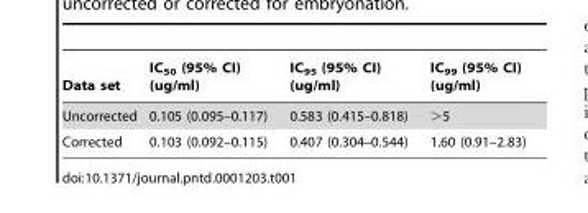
<table><thead><tr><td>Data set</td><td>IC<sub>50</sub> (95% CI) (ug/ml)</td><td>IC<sub>95</sub> (95% CI) (ug/ml)</td><td>IC<sub>99</sub> (95% CI) (ug/ml)</td></tr></thead><tbody><tr><td>Uncorrected</td><td>0.105 (0.095–0.117)</td><td>0.583 (0.415–0.818)</td><td>&gt;5</td></tr><tr><td>Corrected</td><td>0.103 (0.092–0.115)</td><td>0.407 (0.304–0.544)</td><td>1.60 (0.91–2.83)</td></tr></tbody></table>